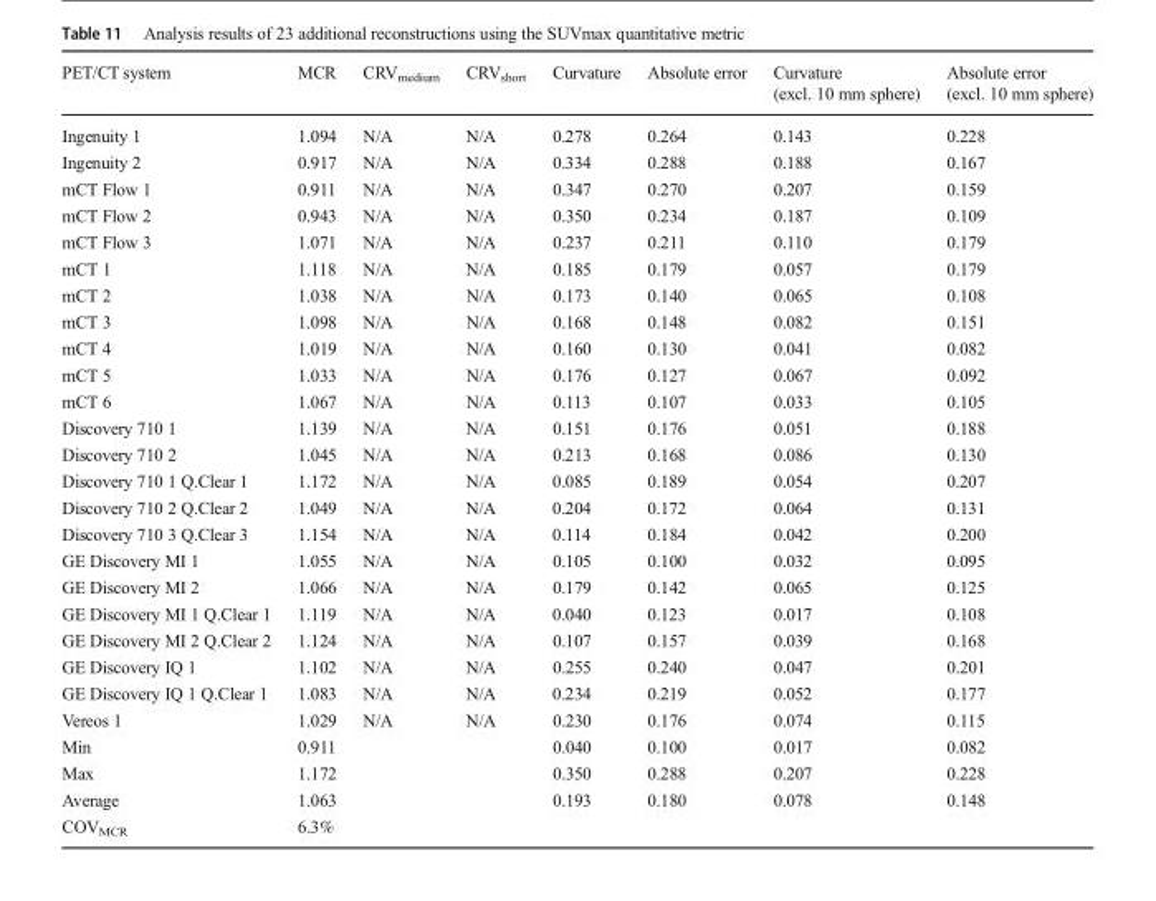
<table><thead><tr><td>PET/CT system</td><td>MCR</td><td>CRV<sub>medium</sub></td><td>CRV<sub>short</sub></td><td>Curvature</td><td>Absolute error</td><td>Curvature (excl. 10 mm sphere)</td><td>Absolute error (excl. 10 mm sphere)</td></tr></thead><tbody><tr><td>Ingenuity 1</td><td>1.094</td><td>N/A</td><td>N/A</td><td>0.278</td><td>0.264</td><td>0.143</td><td>0.228</td></tr><tr><td>Ingenuity 2</td><td>0.917</td><td>N/A</td><td>N/A</td><td>0.334</td><td>0.288</td><td>0.188</td><td>0.167</td></tr><tr><td>mCT Flow 1</td><td>0.911</td><td>N/A</td><td>N/A</td><td>0.347</td><td>0.270</td><td>0.207</td><td>0.159</td></tr><tr><td>mCT Flow 2</td><td>0.943</td><td>N/A</td><td>N/A</td><td>0.350</td><td>0.234</td><td>0.187</td><td>0.109</td></tr><tr><td>mCT Flow 3</td><td>1.071</td><td>N/A</td><td>N/A</td><td>0.237</td><td>0.211</td><td>0.110</td><td>0.179</td></tr><tr><td>mCT 1</td><td>1.118</td><td>N/A</td><td>N/A</td><td>0.185</td><td>0.179</td><td>0.057</td><td>0.179</td></tr><tr><td>mCT 2</td><td>1.038</td><td>N/A</td><td>N/A</td><td>0.173</td><td>0.140</td><td>0.065</td><td>0.108</td></tr><tr><td>mCT 3</td><td>1.098</td><td>N/A</td><td>N/A</td><td>0.168</td><td>0.148</td><td>0.082</td><td>0.151</td></tr><tr><td>mCT 4</td><td>1.019</td><td>N/A</td><td>N/A</td><td>0.160</td><td>0.130</td><td>0.041</td><td>0.082</td></tr><tr><td>mCT 5</td><td>1.033</td><td>N/A</td><td>N/A</td><td>0.176</td><td>0.127</td><td>0.067</td><td>0.092</td></tr><tr><td>mCT 6</td><td>1.067</td><td>N/A</td><td>N/A</td><td>0.113</td><td>0.107</td><td>0.033</td><td>0.105</td></tr><tr><td>Discovery 710 1</td><td>1.139</td><td>N/A</td><td>N/A</td><td>0.151</td><td>0.176</td><td>0.051</td><td>0.188</td></tr><tr><td>Discovery 710 2</td><td>1.045</td><td>N/A</td><td>N/A</td><td>0.213</td><td>0.168</td><td>0.086</td><td>0.130</td></tr><tr><td>Discovery 710 1 Q.Clear 1</td><td>1.172</td><td>N/A</td><td>N/A</td><td>0.085</td><td>0.189</td><td>0.054</td><td>0.207</td></tr><tr><td>Discovery 710 2 Q.Clear 2</td><td>1.049</td><td>N/A</td><td>N/A</td><td>0.204</td><td>0.172</td><td>0.064</td><td>0.131</td></tr><tr><td>Discovery 710 3 Q.Clear 3</td><td>1.154</td><td>N/A</td><td>N/A</td><td>0.114</td><td>0.184</td><td>0.042</td><td>0.200</td></tr><tr><td>GE Discovery MI 1</td><td>1.055</td><td>N/A</td><td>N/A</td><td>0.105</td><td>0.100</td><td>0.032</td><td>0.095</td></tr><tr><td>GE Discovery MI 2</td><td>1.066</td><td>N/A</td><td>N/A</td><td>0.179</td><td>0.142</td><td>0.065</td><td>0.125</td></tr><tr><td>GE Discovery MI 1 Q.Clear 1</td><td>1.119</td><td>N/A</td><td>N/A</td><td>0.040</td><td>0.123</td><td>0.017</td><td>0.108</td></tr><tr><td>GE Discovery MI 2 Q.Clear 2</td><td>1.124</td><td>N/A</td><td>N/A</td><td>0.107</td><td>0.157</td><td>0.039</td><td>0.168</td></tr><tr><td>GE Discovery IQ 1</td><td>1.102</td><td>N/A</td><td>N/A</td><td>0.255</td><td>0.240</td><td>0.047</td><td>0.201</td></tr><tr><td>GE Discovery IQ 1 Q.Clear 1</td><td>1.083</td><td>N/A</td><td>N/A</td><td>0.234</td><td>0.219</td><td>0.052</td><td>0.177</td></tr><tr><td>Vereos 1</td><td>1.029</td><td>N/A</td><td>N/A</td><td>0.230</td><td>0.176</td><td>0.074</td><td>0.115</td></tr><tr><td>Min</td><td>0.911</td><td></td><td></td><td>0.040</td><td>0.100</td><td>0.017</td><td>0.082</td></tr><tr><td>Max</td><td>1.172</td><td></td><td></td><td>0.350</td><td>0.288</td><td>0.207</td><td>0.228</td></tr><tr><td>Average</td><td>1.063</td><td></td><td></td><td>0.193</td><td>0.180</td><td>0.078</td><td>0.148</td></tr><tr><td>COV<sub>MCR</sub></td><td>6.3%</td><td></td><td></td><td></td><td></td><td></td><td></td></tr></tbody></table>